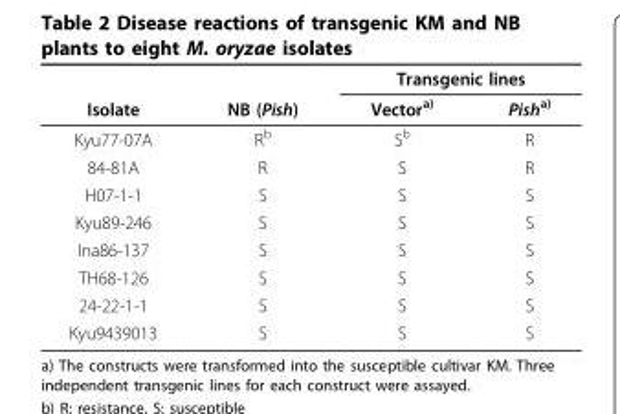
<table><thead><tr><td rowspan="2">Isolate</td><td rowspan="2">NB (Pish)</td><td colspan="2">Transgenic lines</td></tr><tr><td>Vector<sup>a)</sup></td><td>Pish<sup>a)</sup></td></tr></thead><tbody><tr><td>Kyu77-07A</td><td>R<sup>b</sup></td><td>S<sup>b</sup></td><td>R</td></tr><tr><td>84-81A</td><td>R</td><td>S</td><td>R</td></tr><tr><td>H07-1-1</td><td>S</td><td>S</td><td>S</td></tr><tr><td>Kyu89-246</td><td>S</td><td>S</td><td>S</td></tr><tr><td>Ina86-137</td><td>S</td><td>S</td><td>S</td></tr><tr><td>TH68-126</td><td>S</td><td>S</td><td>S</td></tr><tr><td>24-22-1-1</td><td>S</td><td>S</td><td>S</td></tr><tr><td>Kyu9439013</td><td>S</td><td>S</td><td>S</td></tr></tbody></table>